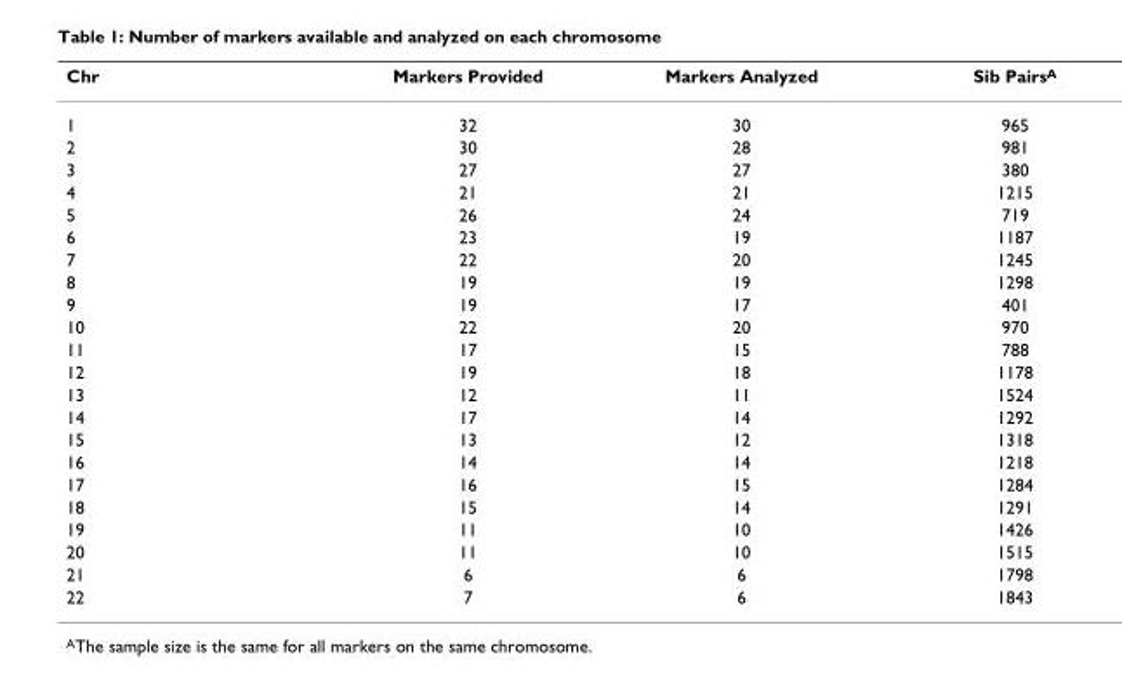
<table><thead><tr><td>Chr</td><td>Markers Provided</td><td>Markers Analyzed</td><td>Sib PairsA</td></tr></thead><tbody><tr><td>1</td><td>32</td><td>30</td><td>965</td></tr><tr><td>2</td><td>30</td><td>28</td><td>981</td></tr><tr><td>3</td><td>27</td><td>27</td><td>380</td></tr><tr><td>4</td><td>21</td><td>21</td><td>1215</td></tr><tr><td>5</td><td>26</td><td>24</td><td>719</td></tr><tr><td>6</td><td>23</td><td>19</td><td>1187</td></tr><tr><td>7</td><td>22</td><td>20</td><td>1245</td></tr><tr><td>8</td><td>19</td><td>19</td><td>1298</td></tr><tr><td>9</td><td>19</td><td>17</td><td>401</td></tr><tr><td>10</td><td>22</td><td>20</td><td>970</td></tr><tr><td>11</td><td>17</td><td>15</td><td>788</td></tr><tr><td>12</td><td>19</td><td>18</td><td>1178</td></tr><tr><td>13</td><td>12</td><td>11</td><td>1524</td></tr><tr><td>14</td><td>17</td><td>14</td><td>1292</td></tr><tr><td>15</td><td>13</td><td>12</td><td>1318</td></tr><tr><td>16</td><td>14</td><td>14</td><td>1218</td></tr><tr><td>17</td><td>16</td><td>15</td><td>1284</td></tr><tr><td>18</td><td>15</td><td>14</td><td>1291</td></tr><tr><td>19</td><td>11</td><td>10</td><td>1426</td></tr><tr><td>20</td><td>11</td><td>10</td><td>1515</td></tr><tr><td>21</td><td>6</td><td>6</td><td>1798</td></tr><tr><td>22</td><td>7</td><td>6</td><td>1843</td></tr></tbody></table>